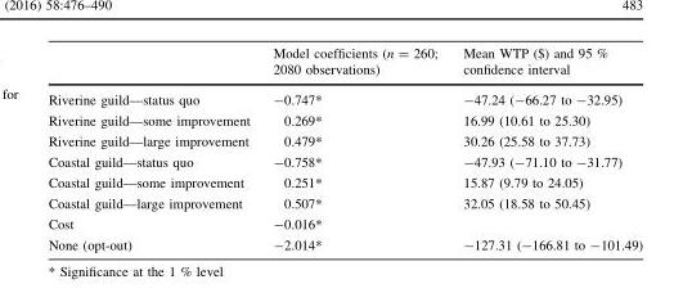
<table><thead><tr><td></td><td>Model coefficients (n = 260; 2080 observations)</td><td>Mean WTP ($) and 95 % confidence interval</td></tr></thead><tbody><tr><td>Riverine guild—status quo</td><td>-0.747*</td><td>-47.24 (-66.27 to -32.95)</td></tr><tr><td>Riverine guild—some improvement</td><td>0.269*</td><td>16.99 (10.61 to 25.30)</td></tr><tr><td>Riverine guild—large improvement</td><td>0.479*</td><td>30.26 (25.58 to 37.73)</td></tr><tr><td>Coastal guild—status quo</td><td>-0.758*</td><td>-47.93 (-71.10 to -31.77)</td></tr><tr><td>Coastal guild—some improvement</td><td>0.251*</td><td>15.87 (9.79 to 24.05)</td></tr><tr><td>Coastal guild—large improvement</td><td>0.507*</td><td>32.05 (18.58 to 50.45)</td></tr><tr><td>Cost</td><td>-0.016*</td><td></td></tr><tr><td>None (opt-out)</td><td>-2.014*</td><td>-127.31 (-166.81 to -101.49)</td></tr></tbody></table>